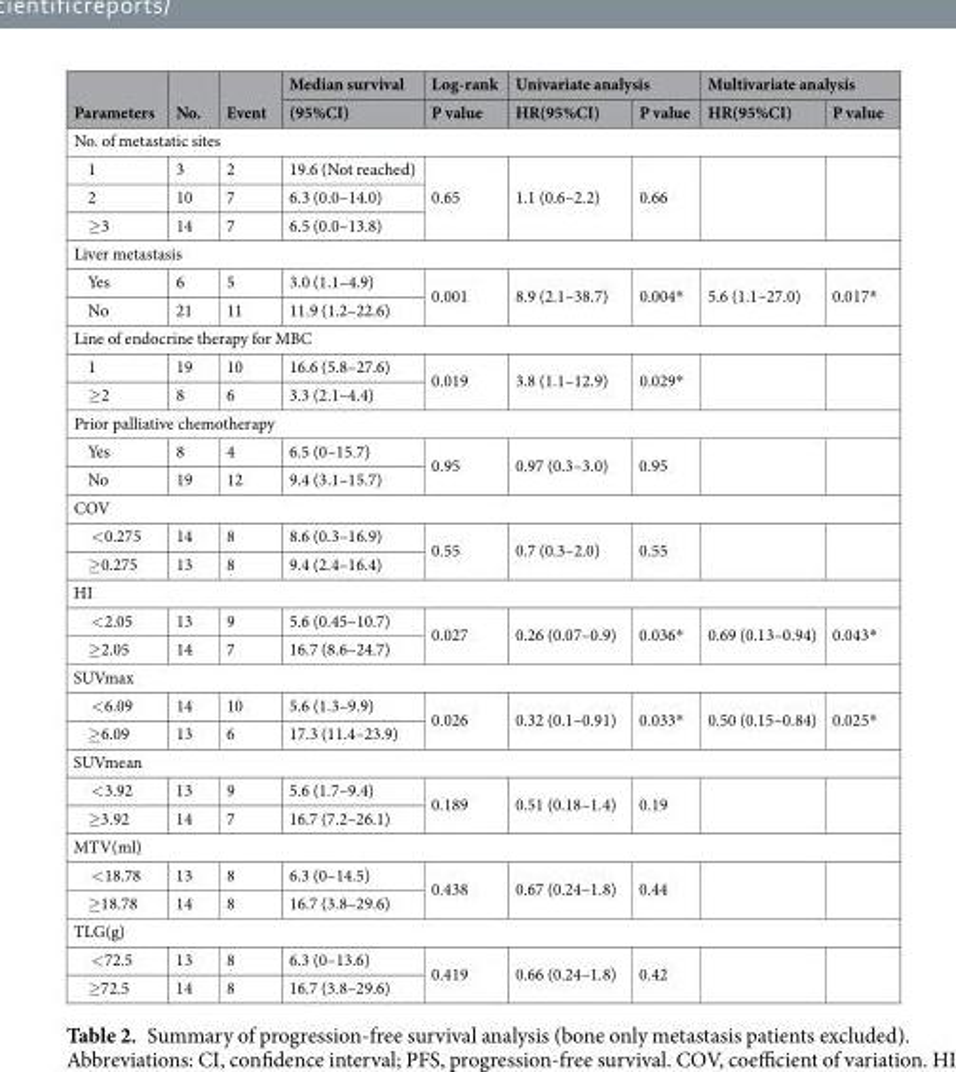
<table><thead><tr><td rowspan="2">Parameters</td><td rowspan="2">No.</td><td rowspan="2">Event</td><td rowspan="2">Median survival (95%CI)</td><td rowspan="2">Log-rank P value</td><td colspan="2">Univariate analysis</td><td colspan="2">Multivariate analysis</td></tr><tr><td>HR(95%CI)</td><td>P value</td><td>HR(95%CI)</td><td>P value</td></tr></thead><tbody><tr><td colspan="9">No. of metastatic sites</td></tr><tr><td>1</td><td>3</td><td>2</td><td>19.6 (Not reached)</td><td rowspan="3">0.65</td><td rowspan="3">1.1 (0.6–2.2)</td><td rowspan="3">0.66</td><td rowspan="3"></td><td rowspan="3"></td></tr><tr><td>2</td><td>10</td><td>7</td><td>6.3 (0.0–14.0)</td></tr><tr><td>≥3</td><td>14</td><td>7</td><td>6.5 (0.0–13.8)</td></tr><tr><td colspan="9">Liver metastasis</td></tr><tr><td>Yes</td><td>6</td><td>5</td><td>3.0 (1.1–4.9)</td><td rowspan="2">0.001</td><td rowspan="2">8.9 (2.1–38.7)</td><td rowspan="2">0.004*</td><td rowspan="2">5.6 (1.1–27.0)</td><td rowspan="2">0.017*</td></tr><tr><td>No</td><td>21</td><td>11</td><td>11.9 (1.2–22.6)</td></tr><tr><td colspan="9">Line of endocrine therapy for MBC</td></tr><tr><td>1</td><td>19</td><td>10</td><td>16.6 (5.8–27.6)</td><td rowspan="2">0.019</td><td rowspan="2">3.8 (1.1–12.9)</td><td rowspan="2">0.029*</td><td rowspan="2"></td><td rowspan="2"></td></tr><tr><td>≥2</td><td>8</td><td>6</td><td>3.3 (2.1–4.4)</td></tr><tr><td colspan="9">Prior palliative chemotherapy</td></tr><tr><td>Yes</td><td>8</td><td>4</td><td>6.5 (0–15.7)</td><td rowspan="2">0.95</td><td rowspan="2">0.97 (0.3–3.0)</td><td rowspan="2">0.95</td><td rowspan="2"></td><td rowspan="2"></td></tr><tr><td>No</td><td>19</td><td>12</td><td>9.4 (3.1–15.7)</td></tr><tr><td colspan="9">COV</td></tr><tr><td>&lt;0.275</td><td>14</td><td>8</td><td>8.6 (0.3–16.9)</td><td rowspan="2">0.55</td><td rowspan="2">0.7 (0.3–2.0)</td><td rowspan="2">0.55</td><td rowspan="2"></td><td rowspan="2"></td></tr><tr><td>≥0.275</td><td>13</td><td>8</td><td>9.4 (2.4–16.4)</td></tr><tr><td colspan="9">HI</td></tr><tr><td>&lt;2.05</td><td>13</td><td>9</td><td>5.6 (0.45–10.7)</td><td rowspan="2">0.027</td><td rowspan="2">0.26 (0.07–0.9)</td><td rowspan="2">0.036*</td><td rowspan="2">0.69 (0.13–0.94)</td><td rowspan="2">0.043*</td></tr><tr><td>≥2.05</td><td>14</td><td>7</td><td>16.7 (8.6–24.7)</td></tr><tr><td colspan="9">SUVmax</td></tr><tr><td>&lt;6.09</td><td>14</td><td>10</td><td>5.6 (1.3–9.9)</td><td rowspan="2">0.026</td><td rowspan="2">0.32 (0.1–0.91)</td><td rowspan="2">0.033*</td><td rowspan="2">0.50 (0.15–0.84)</td><td rowspan="2">0.025*</td></tr><tr><td>≥6.09</td><td>13</td><td>6</td><td>17.3 (11.4–23.9)</td></tr><tr><td colspan="9">SUVmean</td></tr><tr><td>&lt;3.92</td><td>13</td><td>9</td><td>5.6 (1.7–9.4)</td><td rowspan="2">0.189</td><td rowspan="2">0.51 (0.18–1.4)</td><td rowspan="2">0.19</td><td rowspan="2"></td><td rowspan="2"></td></tr><tr><td>≥3.92</td><td>14</td><td>7</td><td>16.7 (7.2–26.1)</td></tr><tr><td colspan="9">MTV(ml)</td></tr><tr><td>&lt;18.78</td><td>13</td><td>8</td><td>6.3 (0–14.5)</td><td rowspan="2">0.438</td><td rowspan="2">0.67 (0.24–1.8)</td><td rowspan="2">0.44</td><td rowspan="2"></td><td rowspan="2"></td></tr><tr><td>≥18.78</td><td>14</td><td>8</td><td>16.7 (3.8–29.6)</td></tr><tr><td colspan="9">TLG(g)</td></tr><tr><td>&lt;72.5</td><td>13</td><td>8</td><td>6.3 (0–13.6)</td><td rowspan="2">0.419</td><td rowspan="2">0.66 (0.24–1.8)</td><td rowspan="2">0.42</td><td rowspan="2"></td><td rowspan="2"></td></tr><tr><td>≥72.5</td><td>14</td><td>8</td><td>16.7 (3.8–29.6)</td></tr></tbody></table>